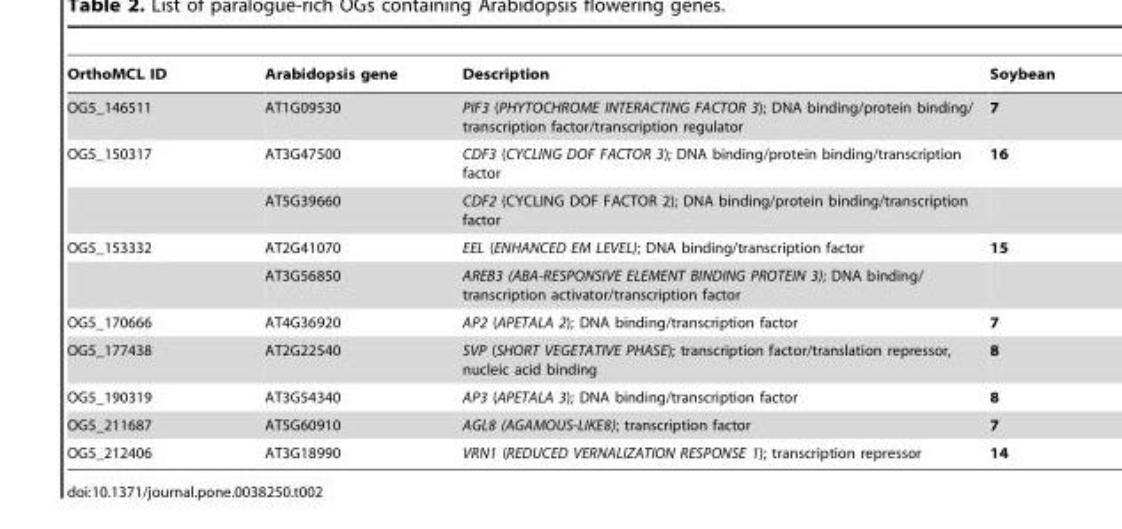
<table><thead><tr><td>OrthoMCL ID</td><td>Arabidopsis gene</td><td>Description</td><td>Soybean</td></tr></thead><tbody><tr><td>OG5_146511</td><td>AT1G09530</td><td>PIF3 (PHYTOCHROME INTERACTING FACTOR 3); DNA binding/protein binding/ transcription factor/transcription regulator</td><td>7</td></tr><tr><td rowspan="2">OG5_150317</td><td>AT3G47500</td><td>CDF3 (CYCLING DOF FACTOR 3); DNA binding/protein binding/transcription factor</td><td>16</td></tr><tr><td>AT5G39660</td><td>CDF2 (CYCLING DOF FACTOR 2); DNA binding/protein binding/transcription factor</td><td></td></tr><tr><td rowspan="2">OG5_153332</td><td>AT2G41070</td><td>EEL (ENHANCED EM LEVEL); DNA binding/transcription factor</td><td>15</td></tr><tr><td>AT3G56850</td><td>AREB3 (ABA-RESPONSIVE ELEMENT BINDING PROTEIN 3); DNA binding/ transcription activator/transcription factor</td><td></td></tr><tr><td>OG5_170666</td><td>AT4G36920</td><td>AP2 (APETALA 2); DNA binding/transcription factor</td><td>7</td></tr><tr><td>OG5_177438</td><td>AT2G22540</td><td>SVP (SHORT VEGETATIVE PHASE); transcription factor/translation repressor, nucleic acid binding</td><td>8</td></tr><tr><td>OG5_190319</td><td>AT3G54340</td><td>AP3 (APETALA 3); DNA binding/transcription factor</td><td>8</td></tr><tr><td>OG5_211687</td><td>AT5G60910</td><td>AGL8 (AGAMOUS-LIKE8); transcription factor</td><td>7</td></tr><tr><td>OG5_212406</td><td>AT3G18990</td><td>VRN1 (REDUCED VERNALIZATION RESPONSE 1); transcription repressor</td><td>14</td></tr></tbody></table>